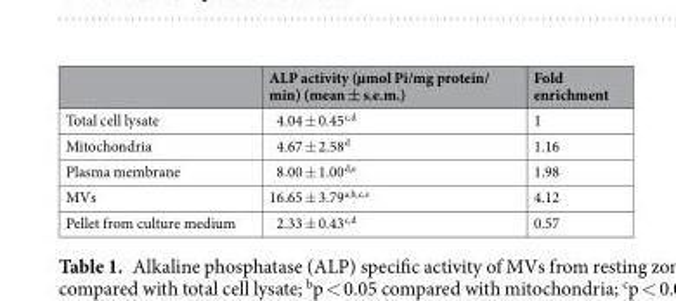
<table><thead><tr><td></td><td>ALP activity (µmol Pi/mg protein/ min) (mean ± s.e.m.)</td><td>Fold enrichment</td></tr></thead><tbody><tr><td>Total cell lysate</td><td>4.04 ± 0.45<sup>c,d</sup></td><td>1</td></tr><tr><td>Mitochondria</td><td>4.67 ± 2.58<sup>d</sup></td><td>1.16</td></tr><tr><td>Plasma membrane</td><td>8.00 ± 1.00<sup>d,e</sup></td><td>1.98</td></tr><tr><td>MVs</td><td>16.65 ± 3.79<sup>a,b,c,e</sup></td><td>4.12</td></tr><tr><td>Pellet from culture medium</td><td>2.33 ± 0.43<sup>c,d</sup></td><td>0.57</td></tr></tbody></table>